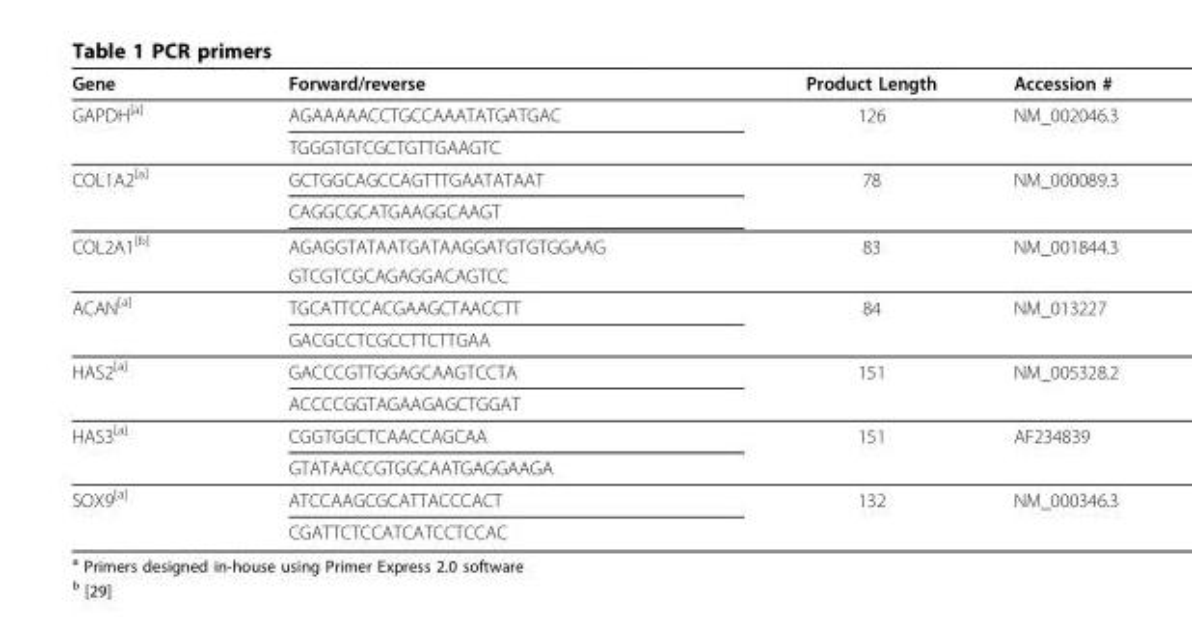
<table><thead><tr><td>Gene</td><td>Forward/reverse</td><td>Product Length</td><td>Accession #</td></tr></thead><tbody><tr><td rowspan="2">GAPDH<sup>[a]</sup></td><td>AGAAAAACCTGCCAAATATGATGAC</td><td>126</td><td>NM_002046.3</td></tr><tr><td>TGGGTGTCGCTGTTGAAGTC</td><td></td><td></td></tr><tr><td rowspan="2">COL1A2<sup>[a]</sup></td><td>GCTGGCAGCCAGTTTGAATATAAT</td><td>78</td><td>NM_000089.3</td></tr><tr><td>CAGGCGCATGAAGGCAAGT</td><td></td><td></td></tr><tr><td rowspan="2">COL2A1<sup>[b]</sup></td><td>AGAGGTATAATGATAAGGATGTGTGGAAG</td><td>83</td><td>NM_001844.3</td></tr><tr><td>GTCGTCGCAGAGGACAGTCC</td><td></td><td></td></tr><tr><td rowspan="2">ACAN<sup>[a]</sup></td><td>TGCATTCCACGAAGCTAACCTT</td><td>84</td><td>NM_013227</td></tr><tr><td>GACGCCTCGCCTTCTTGAA</td><td></td><td></td></tr><tr><td rowspan="2">HAS2<sup>[a]</sup></td><td>GACCCGTTGGAGCAAGTCCTA</td><td>151</td><td>NM_005328.2</td></tr><tr><td>ACCCCGGTAGAAGAGCTGGAT</td><td></td><td></td></tr><tr><td rowspan="2">HAS3<sup>[a]</sup></td><td>CGGTGGCTCAACCAGCAA</td><td>151</td><td>AF234839</td></tr><tr><td>GTATAACCGTGGCAATGAGGAAGA</td><td></td><td></td></tr><tr><td rowspan="2">SOX9<sup>[a]</sup></td><td>ATCCAAGCGCATTACCCACT</td><td>132</td><td>NM_000346.3</td></tr><tr><td>CGATTCTCCATCATCCTCCAC</td><td></td><td></td></tr></tbody></table>